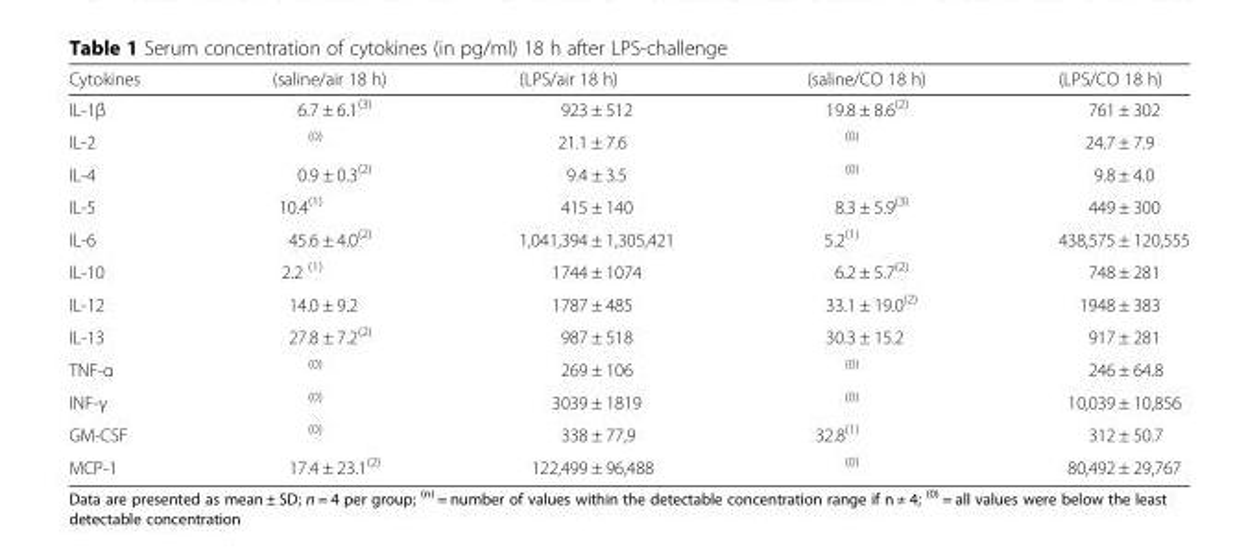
<table><thead><tr><td>Cytokines</td><td>(saline/air 18 h)</td><td>(LPS/air 18 h)</td><td>(saline/CO 18 h)</td><td>(LPS/CO 18 h)</td></tr></thead><tbody><tr><td>IL-1β</td><td>6.7 ± 6.1<sup>(3)</sup></td><td>923 ± 512</td><td>19.8 ± 8.6<sup>(2)</sup></td><td>761 ± 302</td></tr><tr><td>IL-2</td><td><sup>(0)</sup></td><td>21.1 ± 7.6</td><td><sup>(0)</sup></td><td>24.7 ± 7.9</td></tr><tr><td>IL-4</td><td>0.9 ± 0.3<sup>(2)</sup></td><td>9.4 ± 3.5</td><td><sup>(0)</sup></td><td>9.8 ± 4.0</td></tr><tr><td>IL-5</td><td>10.4<sup>(1)</sup></td><td>415 ± 140</td><td>8.3 ± 5.9<sup>(3)</sup></td><td>449 ± 300</td></tr><tr><td>IL-6</td><td>45.6 ± 4.0<sup>(2)</sup></td><td>1,041,394 ± 1,305,421</td><td>5.2<sup>(1)</sup></td><td>438,575 ± 120,555</td></tr><tr><td>IL-10</td><td>2.2 <sup>(1)</sup></td><td>1744 ± 1074</td><td>6.2 ± 5.7<sup>(2)</sup></td><td>748 ± 281</td></tr><tr><td>IL-12</td><td>14.0 ± 9.2</td><td>1787 ± 485</td><td>33.1 ± 19.0<sup>(2)</sup></td><td>1948 ± 383</td></tr><tr><td>IL-13</td><td>27.8 ± 7.2<sup>(2)</sup></td><td>987 ± 518</td><td>30.3 ± 15.2</td><td>917 ± 281</td></tr><tr><td>TNF-α</td><td><sup>(0)</sup></td><td>269 ± 106</td><td><sup>(0)</sup></td><td>246 ± 64.8</td></tr><tr><td>INF-γ</td><td><sup>(0)</sup></td><td>3039 ± 1819</td><td><sup>(0)</sup></td><td>10,039 ± 10,856</td></tr><tr><td>GM-CSF</td><td><sup>(0)</sup></td><td>338 ± 77,9</td><td>32.8<sup>(1)</sup></td><td>312 ± 50.7</td></tr><tr><td>MCP-1</td><td>17.4 ± 23.1<sup>(2)</sup></td><td>122,499 ± 96,488</td><td><sup>(0)</sup></td><td>80,492 ± 29,767</td></tr></tbody></table>